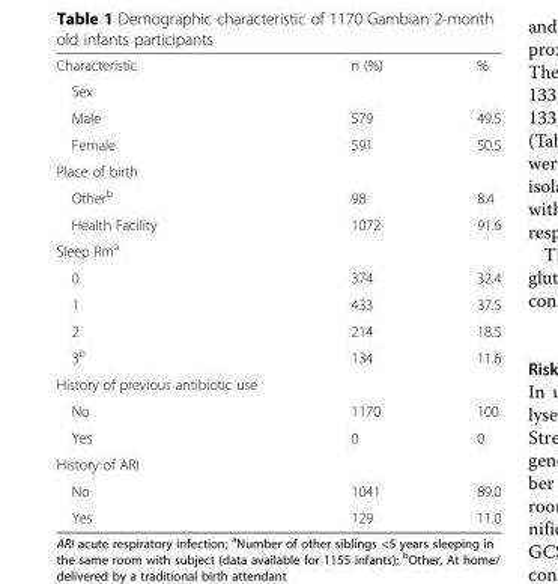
<table><tbody><tr><td>Characteristic</td><td>n (%)</td><td>%</td></tr><tr><td colspan="3">Sex</td></tr><tr><td>Male</td><td>579</td><td>49.5</td></tr><tr><td>Female</td><td>591</td><td>50.5</td></tr><tr><td colspan="3">Place of birth</td></tr><tr><td>Other<sup>b</sup></td><td>98</td><td>8.4</td></tr><tr><td>Health Facility</td><td>1072</td><td>91.6</td></tr><tr><td colspan="3">Sleep Rm<sup>a</sup></td></tr><tr><td>0</td><td>374</td><td>32.4</td></tr><tr><td>1</td><td>433</td><td>37.5</td></tr><tr><td>2</td><td>214</td><td>18.5</td></tr><tr><td>3<sup>b</sup></td><td>134</td><td>11.6</td></tr><tr><td colspan="3">History of previous antibiotic use</td></tr><tr><td>No</td><td>1170</td><td>100</td></tr><tr><td>Yes</td><td>0</td><td>0</td></tr><tr><td colspan="3">History of ARI</td></tr><tr><td>No</td><td>1041</td><td>89.0</td></tr><tr><td>Yes</td><td>129</td><td>11.0</td></tr></tbody></table>